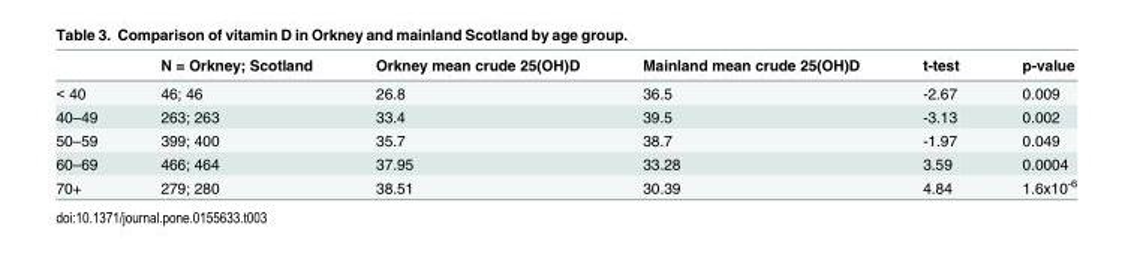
<table><thead><tr><td></td><td>N = Orkney; Scotland</td><td>Orkney mean crude 25(OH)D</td><td>Mainland mean crude 25(OH)D</td><td>t-test</td><td>p-value</td></tr></thead><tbody><tr><td>&lt; 40</td><td>46; 46</td><td>26.8</td><td>36.5</td><td>-2.67</td><td>0.009</td></tr><tr><td>40–49</td><td>263; 263</td><td>33.4</td><td>39.5</td><td>-3.13</td><td>0.002</td></tr><tr><td>50–59</td><td>399; 400</td><td>35.7</td><td>38.7</td><td>-1.97</td><td>0.049</td></tr><tr><td>60–69</td><td>466; 464</td><td>37.95</td><td>33.28</td><td>3.59</td><td>0.0004</td></tr><tr><td>70+</td><td>279; 280</td><td>38.51</td><td>30.39</td><td>4.84</td><td>1.6x10<sup>-6</sup></td></tr></tbody></table>